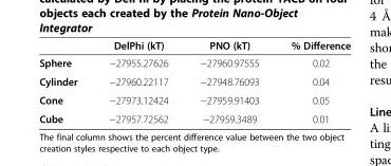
<table><thead><tr><td></td><td>DelPhi (kT)</td><td>PNO (kT)</td><td>% Difference</td></tr></thead><tbody><tr><td>Sphere</td><td>−27955.27626</td><td>−27960.97555</td><td>0.02</td></tr><tr><td>Cylinder</td><td>−27960.22117</td><td>−27948.76093</td><td>0.04</td></tr><tr><td>Cone</td><td>−27973.12424</td><td>−27959.91403</td><td>0.05</td></tr><tr><td>Cube</td><td>−27957.72562</td><td>−27959.3489</td><td>0.01</td></tr></tbody></table>